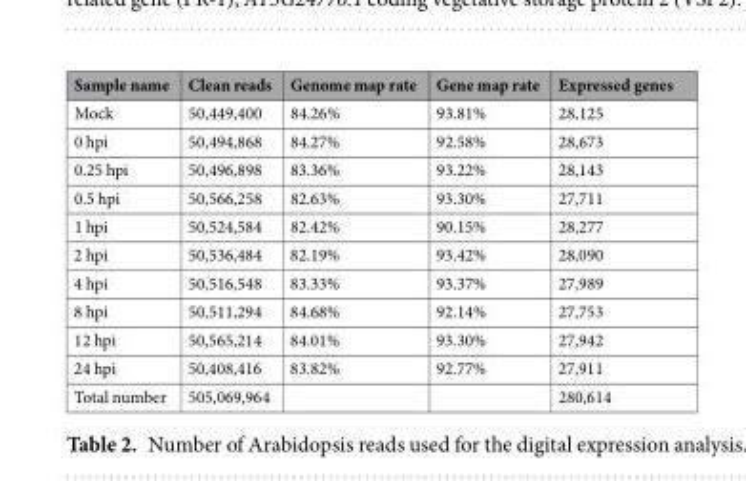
<table><thead><tr><td>Sample name</td><td>Clean reads</td><td>Genome map rate</td><td>Gene map rate</td><td>Expressed genes</td></tr></thead><tbody><tr><td>Mock</td><td>50,449,400</td><td>84.26%</td><td>93.81%</td><td>28,125</td></tr><tr><td>0 hpi</td><td>50,494,868</td><td>84.27%</td><td>92.58%</td><td>28,673</td></tr><tr><td>0.25 hpi</td><td>50,496,898</td><td>83.36%</td><td>93.22%</td><td>28,143</td></tr><tr><td>0.5 hpi</td><td>50,566,258</td><td>82.63%</td><td>93.30%</td><td>27,711</td></tr><tr><td>1 hpi</td><td>50,524,584</td><td>82.42%</td><td>90.15%</td><td>28,277</td></tr><tr><td>2 hpi</td><td>50,536,484</td><td>82.19%</td><td>93.42%</td><td>28,090</td></tr><tr><td>4 hpi</td><td>50,516,548</td><td>83.33%</td><td>93.37%</td><td>27,989</td></tr><tr><td>8 hpi</td><td>50,511,294</td><td>84.68%</td><td>92.14%</td><td>27,753</td></tr><tr><td>12 hpi</td><td>50,565,214</td><td>84.01%</td><td>93.30%</td><td>27,942</td></tr><tr><td>24 hpi</td><td>50,408,416</td><td>83.82%</td><td>92.77%</td><td>27,911</td></tr><tr><td>Total number</td><td>505,069,964</td><td></td><td></td><td>280,614</td></tr></tbody></table>